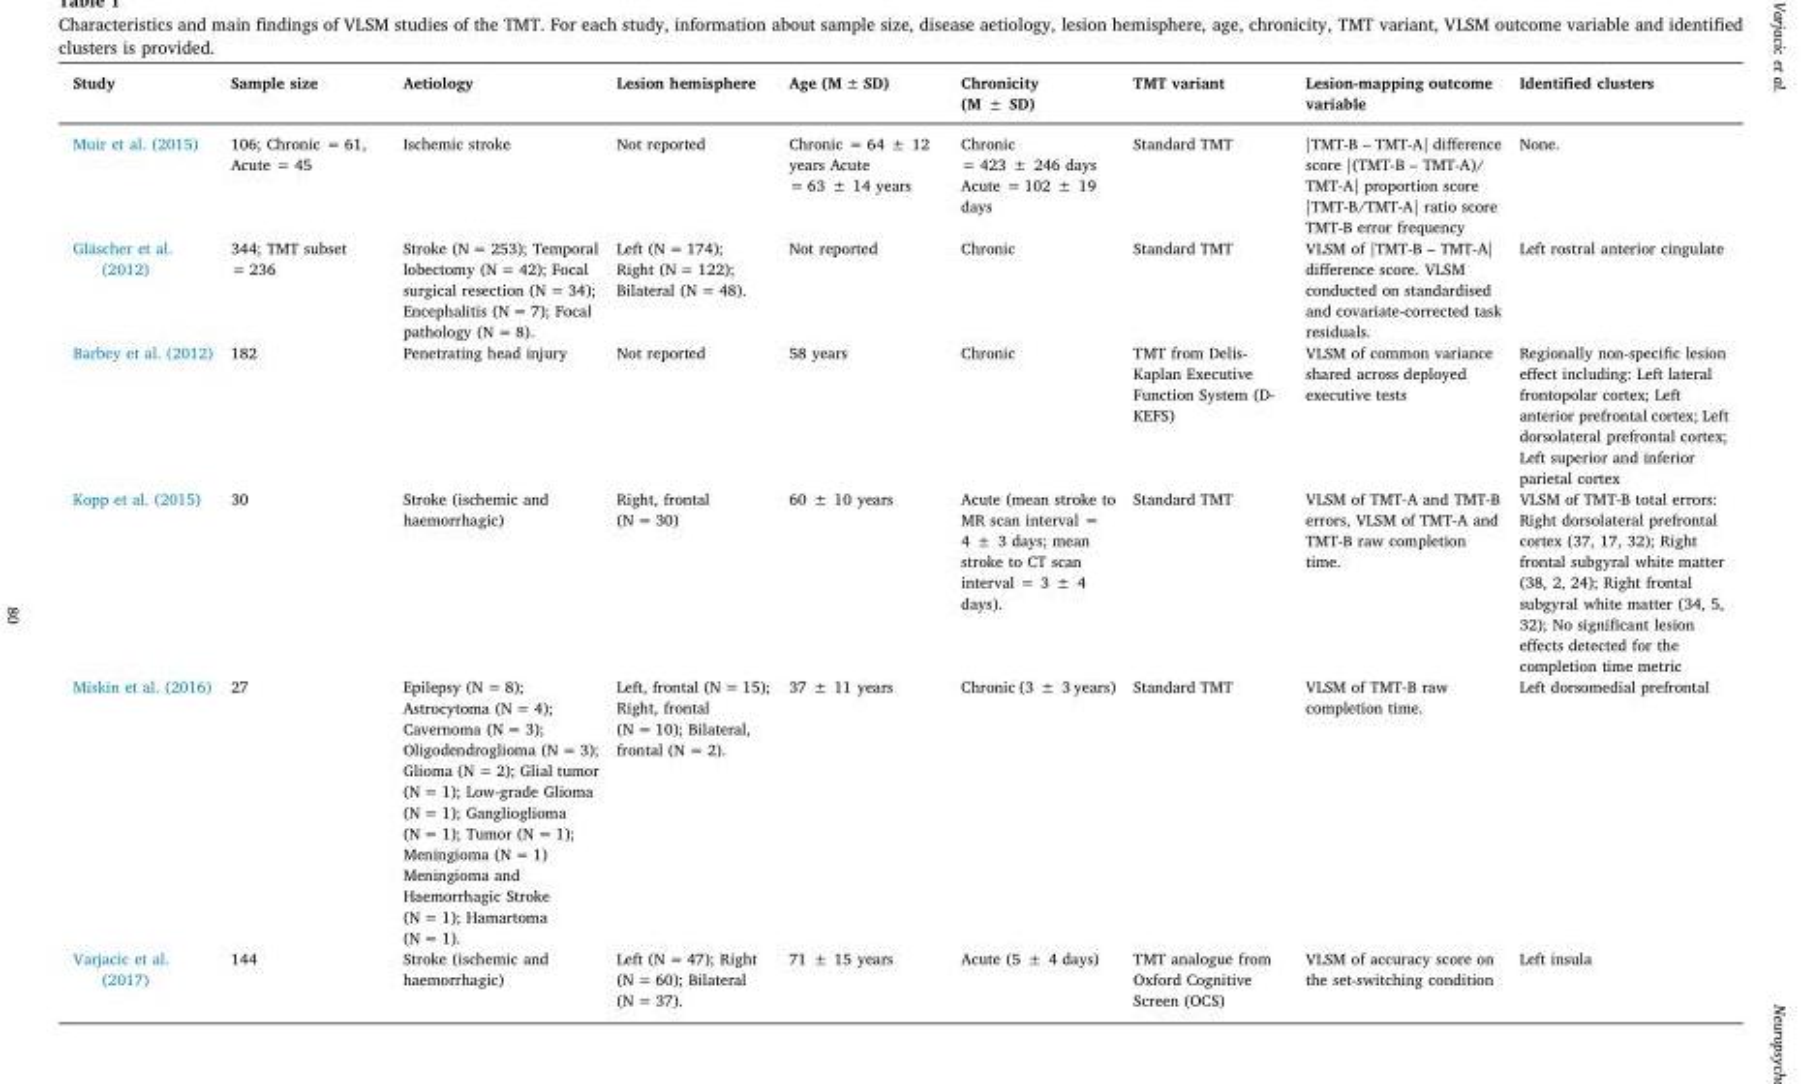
<table><thead><tr><td>Study</td><td>Sample size</td><td>Aetiology</td><td>Lesion hemisphere</td><td>Age (M ± SD)</td><td>Chronicity (M ± SD)</td><td>TMT variant</td><td>Lesion-mapping outcome variable</td><td>Identified clusters</td></tr></thead><tbody><tr><td>Muir et al. (2015)</td><td>106; Chronic = 61, Acute = 45</td><td>Ischemic stroke</td><td>Not reported</td><td>Chronic = 64 ± 12 years Acute = 63 ± 14 years</td><td>Chronic = 423 ± 246 days Acute = 102 ± 19 days</td><td>Standard TMT</td><td>|TMT-B – TMT-A| difference score |(TMT-B – TMT-A)/ TMT-A| proportion score |TMT-B/TMT-A| ratio score TMT-B error frequency</td><td>None.</td></tr><tr><td rowspan="3">Gläscher et al. (2012)</td><td rowspan="3">344; TMT subset = 236</td><td rowspan="3">Stroke (N = 253); Temporal lobectomy (N = 42); Focal surgical resection (N = 34); Encephalitis (N = 7); Focal pathology (N = 8).</td><td>Left (N = 174);</td><td rowspan="3">Not reported</td><td rowspan="3">Chronic</td><td rowspan="3">Standard TMT</td><td rowspan="3">VLSM of |TMT-B – TMT-A| difference score. VLSM conducted on standardised and covariate-corrected task residuals.</td><td rowspan="3">Left rostral anterior cingulate</td></tr><tr><td>Right (N = 122);</td></tr><tr><td>Bilateral (N = 48).</td></tr><tr><td>Barbey et al. (2012)</td><td>182</td><td>Penetrating head injury</td><td>Not reported</td><td>58 years</td><td>Chronic</td><td>TMT from Delis- Kaplan Executive Function System (D- KEFS)</td><td>VLSM of common variance shared across deployed executive tests</td><td>Regionally non-specific lesion effect including: Left lateral frontopolar cortex; Left anterior prefrontal cortex; Left dorsolateral prefrontal cortex; Left superior and inferior parietal cortex</td></tr><tr><td>Kopp et al. (2015)</td><td>30</td><td>Stroke (ischemic and haemorrhagic)</td><td>Right, frontal (N = 30)</td><td>60 ± 10 years</td><td>Acute (mean stroke to MR scan interval = 4 ± 3 days; mean stroke to CT scan interval = 3 ± 4 days).</td><td>Standard TMT</td><td>VLSM of TMT-A and TMT-B errors, VLSM of TMT-A and TMT-B raw completion time.</td><td>VLSM of TMT-B total errors: Right dorsolateral prefrontal cortex (37, 17, 32); Right frontal subgyral white matter (38, 2, 24); Right frontal subgyral white matter (34, 5, 32); No significant lesion effects detected for the completion time metric</td></tr><tr><td>Miskin et al. (2016)</td><td>27</td><td>Epilepsy (N = 8); Astrocytoma (N = 4); Cavernoma (N = 3); Oligodendroglioma (N = 3); Glioma (N = 2); Glial tumor (N = 1); Low-grade Glioma (N = 1); Ganglioglioma (N = 1); Tumor (N = 1); Meningioma (N = 1) Meningioma and Haemorrhagic Stroke (N = 1); Hamartoma (N = 1).</td><td>Left, frontal (N = 15); Right, frontal (N = 10); Bilateral, frontal (N = 2).</td><td>37 ± 11 years</td><td>Chronic (3 ± 3 years)</td><td>Standard TMT</td><td>VLSM of TMT-B raw completion time.</td><td>Left dorsomedial prefrontal</td></tr><tr><td>Varjacic et al. (2017)</td><td>144</td><td>Stroke (ischemic and haemorrhagic)</td><td>Left (N = 47); Right (N = 60); Bilateral (N = 37).</td><td>71 ± 15 years</td><td>Acute (5 ± 4 days)</td><td>TMT analogue from Oxford Cognitive Screen (OCS)</td><td>VLSM of accuracy score on the set-switching condition</td><td>Left insula</td></tr></tbody></table>